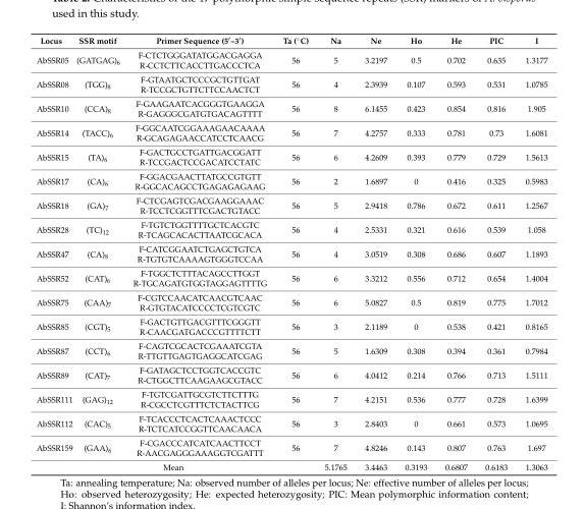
<table><thead><tr><td>Locus</td><td>SSR motif</td><td>Primer Sequence (5′–3′)</td><td>Ta (◦C)</td><td>Na</td><td>Ne</td><td>Ho</td><td>He</td><td>PIC</td><td>I</td></tr></thead><tbody><tr><td>AbSSR05</td><td>(GATGAG)<sub>6</sub></td><td>F-CTCTGGGATATGGACGAGGA R-CCTCTTCACCTTGACCCTCA</td><td>56</td><td>5</td><td>3.2197</td><td>0.5</td><td>0.702</td><td>0.635</td><td>1.3177</td></tr><tr><td>AbSSR08</td><td>(TGG)<sub>8</sub></td><td>F-GTAATGCTCCCGCTGTTGAT R-TCCGCTGTTCTTCCAACTCT</td><td>56</td><td>4</td><td>2.3939</td><td>0.107</td><td>0.593</td><td>0.531</td><td>1.0785</td></tr><tr><td>AbSSR10</td><td>(CCA)<sub>8</sub></td><td>F-GAAGAATCACGGGTGAAGGA R-GAGGGCGATGTGACAGTTTT</td><td>56</td><td>8</td><td>6.1455</td><td>0.423</td><td>0.854</td><td>0.816</td><td>1.905</td></tr><tr><td>AbSSR14</td><td>(TACC)<sub>6</sub></td><td>F-GGCAATCGGAAAGAACAAAA R-GCAGAGAACCATCCTCAACG</td><td>56</td><td>7</td><td>4.2757</td><td>0.333</td><td>0.781</td><td>0.73</td><td>1.6081</td></tr><tr><td>AbSSR15</td><td>(TA)<sub>6</sub></td><td>F-GACTGCCTGATTGACGGATT R-TCCGACTCCGACATCCTATC</td><td>56</td><td>6</td><td>4.2609</td><td>0.393</td><td>0.779</td><td>0.729</td><td>1.5613</td></tr><tr><td>AbSSR17</td><td>(CA)<sub>6</sub></td><td>F-GGACGAACTTATGCCGTGTT R-GGCACAGCCTGAGAGAGAAG</td><td>56</td><td>2</td><td>1.6897</td><td>0</td><td>0.416</td><td>0.325</td><td>0.5983</td></tr><tr><td>AbSSR18</td><td>(GA)<sub>7</sub></td><td>F-CTCGAGTCGACGAAGGAAAC R-TCCTCGGTTTCGACTGTACC</td><td>56</td><td>5</td><td>2.9418</td><td>0.786</td><td>0.672</td><td>0.611</td><td>1.2567</td></tr><tr><td>AbSSR28</td><td>(TC)<sub>12</sub></td><td>F-TGTCTGGTTTTGCTCACGTC R-TCAGCACACTTAATCGCACA</td><td>56</td><td>4</td><td>2.5331</td><td>0.321</td><td>0.616</td><td>0.539</td><td>1.058</td></tr><tr><td>AbSSR47</td><td>(CA)<sub>8</sub></td><td>F-CATCGGAATCTGAGCTGTCA R-TGTGTCAAAAGTGGGTCCAA</td><td>56</td><td>4</td><td>3.0519</td><td>0.308</td><td>0.686</td><td>0.607</td><td>1.1893</td></tr><tr><td>AbSSR52</td><td>(CAT)<sub>6</sub></td><td>F-TGGCTCTTTACAGCCTTGGT R-TGCAGATGTGGTAGGAGTTTTG</td><td>56</td><td>6</td><td>3.3212</td><td>0.556</td><td>0.712</td><td>0.654</td><td>1.4004</td></tr><tr><td>AbSSR75</td><td>(CAA)<sub>7</sub></td><td>F-CGTCCAACATCAACGTCAAC R-GTGTACATCCCCTCGTCGTC</td><td>56</td><td>6</td><td>5.0827</td><td>0.5</td><td>0.819</td><td>0.775</td><td>1.7012</td></tr><tr><td>AbSSR85</td><td>(CGT)<sub>5</sub></td><td>F-GACTGTTGACGTTTCGGGTT R-CAACGATGACCCGTTTTCTT</td><td>56</td><td>3</td><td>2.1189</td><td>0</td><td>0.538</td><td>0.421</td><td>0.8165</td></tr><tr><td>AbSSR87</td><td>(CCT)<sub>6</sub></td><td>F-CAGTCGCACTCGAAATCGTA R-TTGTTGAGTGAGGCATCGAG</td><td>56</td><td>5</td><td>1.6309</td><td>0.308</td><td>0.394</td><td>0.361</td><td>0.7984</td></tr><tr><td>AbSSR89</td><td>(CAT)<sub>7</sub></td><td>F-GATAGCTCCTGGTCACCGTC R-CTGGCTTCAAGAAGCGTACC</td><td>56</td><td>6</td><td>4.0412</td><td>0.214</td><td>0.766</td><td>0.713</td><td>1.5111</td></tr><tr><td>AbSSR111</td><td>(GAG)<sub>12</sub></td><td>F-TGTCGATTGCGTCTTCTTTG R-CGCCTCGTTTCTCTACTTCG</td><td>56</td><td>7</td><td>4.2151</td><td>0.536</td><td>0.777</td><td>0.728</td><td>1.6399</td></tr><tr><td>AbSSR112</td><td>(CAC)<sub>5</sub></td><td>F-TCACCCTCACTCAAACTCCC R-TCTCATCCGGTTCAACAACA</td><td>56</td><td>3</td><td>2.8403</td><td>0</td><td>0.661</td><td>0.573</td><td>1.0695</td></tr><tr><td>AbSSR159</td><td>(GAA)<sub>6</sub></td><td>F-CGACCCATCATCAACTTCCT R-AACGAGGGAAAGGTCGATTT</td><td>56</td><td>7</td><td>4.8246</td><td>0.143</td><td>0.807</td><td>0.763</td><td>1.697</td></tr><tr><td colspan="4">Mean</td><td>5.1765</td><td>3.4463</td><td>0.3193</td><td>0.6807</td><td>0.6183</td><td>1.3063</td></tr></tbody></table>